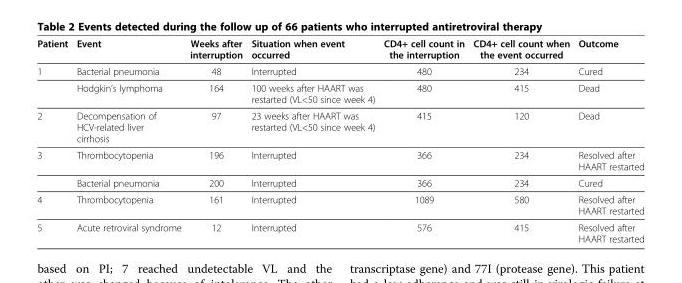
<table><thead><tr><td>Patient</td><td>Event</td><td>Weeks after interruption</td><td>Situation when event occurred</td><td>CD4+ cell count in the interruption</td><td>CD4+ cell count when the event occurred</td><td>Outcome</td></tr></thead><tbody><tr><td rowspan="2">1</td><td>Bacterial pneumonia</td><td>48</td><td>Interrupted</td><td>480</td><td>234</td><td>Cured</td></tr><tr><td>Hodgkin’s lymphoma</td><td>164</td><td>100 weeks after HAART was restarted (VL&lt;50 since week 4)</td><td>480</td><td>415</td><td>Dead</td></tr><tr><td>2</td><td>Decompensation of HCV-related liver cirrhosis</td><td>97</td><td>23 weeks after HAART was restarted (VL&lt;50 since week 4)</td><td>415</td><td>120</td><td>Dead</td></tr><tr><td rowspan="2">3</td><td>Thrombocytopenia</td><td>196</td><td>Interrupted</td><td>366</td><td>234</td><td>Resolved after HAART restarted</td></tr><tr><td>Bacterial pneumonia</td><td>200</td><td>Interrupted</td><td>366</td><td>234</td><td>Cured</td></tr><tr><td>4</td><td>Thrombocytopenia</td><td>161</td><td>Interrupted</td><td>1089</td><td>580</td><td>Resolved after HAART restarted</td></tr><tr><td>5</td><td>Acute retroviral syndrome</td><td>12</td><td>Interrupted</td><td>576</td><td>415</td><td>Resolved after HAART restarted</td></tr></tbody></table>